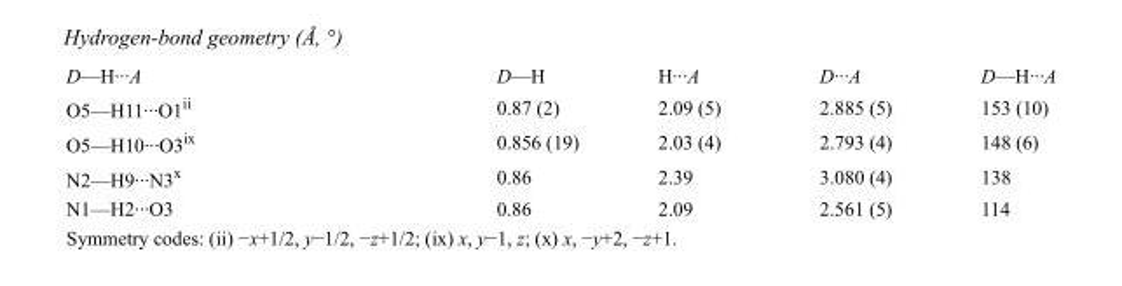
<table><tbody><tr><td>D—H···A</td><td>D—H</td><td>H···A</td><td>D···A</td><td>D—H···A</td></tr><tr><td>O5—H11···O1<sup>ii</sup></td><td>0.87 (2)</td><td>2.09 (5)</td><td>2.885 (5)</td><td>153 (10)</td></tr><tr><td>O5—H10···O3<sup>ix</sup></td><td>0.856 (19)</td><td>2.03 (4)</td><td>2.793 (4)</td><td>148 (6)</td></tr><tr><td>N2—H9···N3<sup>x</sup></td><td>0.86</td><td>2.39</td><td>3.080 (4)</td><td>138</td></tr><tr><td>N1—H2···O3</td><td>0.86</td><td>2.09</td><td>2.561 (5)</td><td>114</td></tr></tbody></table>